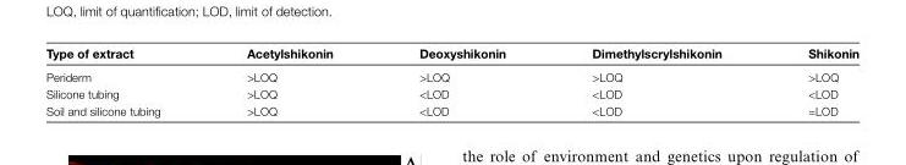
<table><thead><tr><td>Type of extract</td><td>Acetylshikonin</td><td>Deoxyshikonin</td><td>Dimethylscrylshikonin</td><td>Shikonin</td></tr></thead><tbody><tr><td>Periderm</td><td>&gt;LOQ</td><td>&gt;LOQ</td><td>&gt;LOQ</td><td>&gt;LOQ</td></tr><tr><td>Silicone tubing</td><td>&gt;LOQ</td><td>&lt;LOD</td><td>&lt;LOD</td><td>&lt;LOD</td></tr><tr><td>Soil and silicone tubing</td><td>&gt;LOQ</td><td>&lt;LOD</td><td>&lt;LOD</td><td>=LOD</td></tr></tbody></table>